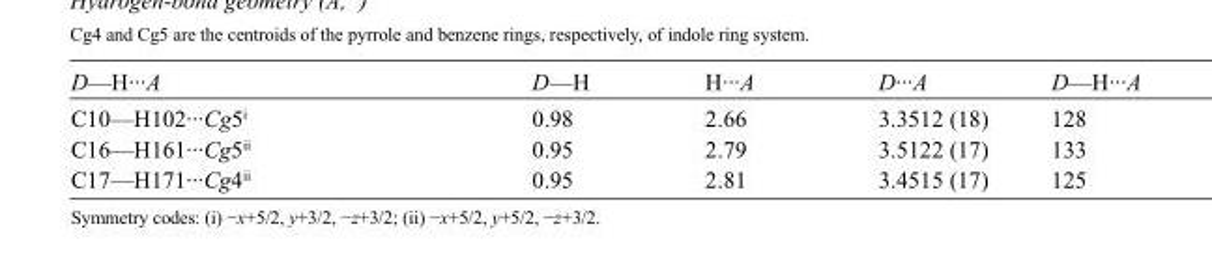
<table><tbody><tr><td>D—H···A</td><td>D—H</td><td>H···A</td><td>D···A</td><td>D—H···A</td></tr><tr><td>C10—H102···Cg5<sup>i</sup></td><td>0.98</td><td>2.66</td><td>3.3512 (18)</td><td>128</td></tr><tr><td>C16—H161···Cg5<sup>ii</sup></td><td>0.95</td><td>2.79</td><td>3.5122 (17)</td><td>133</td></tr><tr><td>C17—H171···Cg4<sup>ii</sup></td><td>0.95</td><td>2.81</td><td>3.4515 (17)</td><td>125</td></tr></tbody></table>